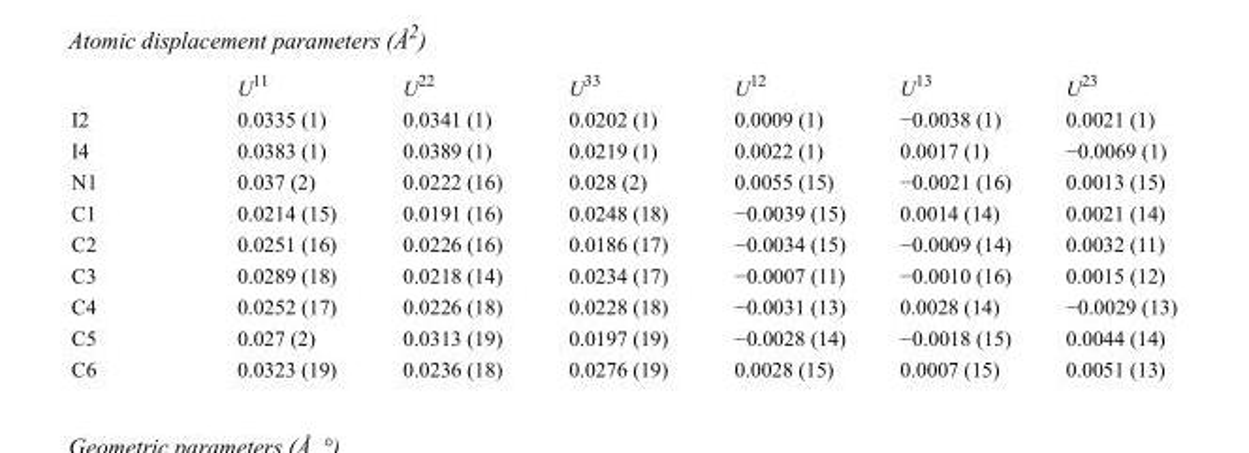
<table><thead><tr><td></td><td>U<sup>11</sup></td><td>U<sup>22</sup></td><td>U<sup>33</sup></td><td>U<sup>12</sup></td><td>U<sup>13</sup></td><td>U<sup>23</sup></td></tr></thead><tbody><tr><td>I2</td><td>0.0335 (1)</td><td>0.0341 (1)</td><td>0.0202 (1)</td><td>0.0009 (1)</td><td>−0.0038 (1)</td><td>0.0021 (1)</td></tr><tr><td>I4</td><td>0.0383 (1)</td><td>0.0389 (1)</td><td>0.0219 (1)</td><td>0.0022 (1)</td><td>0.0017 (1)</td><td>−0.0069 (1)</td></tr><tr><td>N1</td><td>0.037 (2)</td><td>0.0222 (16)</td><td>0.028 (2)</td><td>0.0055 (15)</td><td>−0.0021 (16)</td><td>0.0013 (15)</td></tr><tr><td>C1</td><td>0.0214 (15)</td><td>0.0191 (16)</td><td>0.0248 (18)</td><td>−0.0039 (15)</td><td>0.0014 (14)</td><td>0.0021 (14)</td></tr><tr><td>C2</td><td>0.0251 (16)</td><td>0.0226 (16)</td><td>0.0186 (17)</td><td>−0.0034 (15)</td><td>−0.0009 (14)</td><td>0.0032 (11)</td></tr><tr><td>C3</td><td>0.0289 (18)</td><td>0.0218 (14)</td><td>0.0234 (17)</td><td>−0.0007 (11)</td><td>−0.0010 (16)</td><td>0.0015 (12)</td></tr><tr><td>C4</td><td>0.0252 (17)</td><td>0.0226 (18)</td><td>0.0228 (18)</td><td>−0.0031 (13)</td><td>0.0028 (14)</td><td>−0.0029 (13)</td></tr><tr><td>C5</td><td>0.027 (2)</td><td>0.0313 (19)</td><td>0.0197 (19)</td><td>−0.0028 (14)</td><td>−0.0018 (15)</td><td>0.0044 (14)</td></tr><tr><td>C6</td><td>0.0323 (19)</td><td>0.0236 (18)</td><td>0.0276 (19)</td><td>0.0028 (15)</td><td>0.0007 (15)</td><td>0.0051 (13)</td></tr></tbody></table>